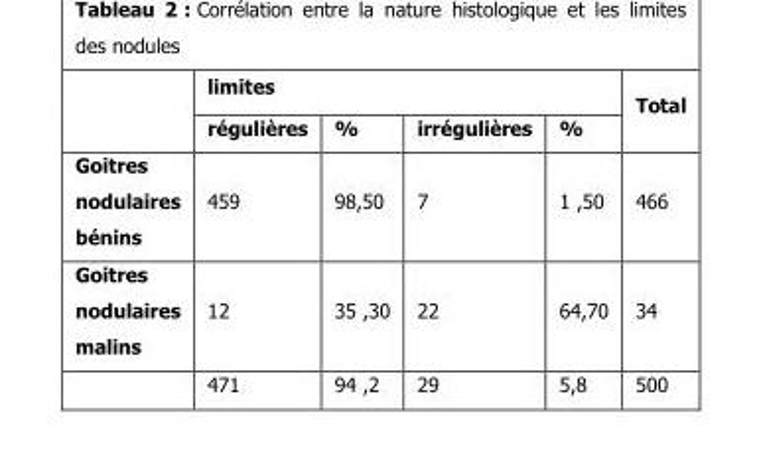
<table><thead><tr><td rowspan="2"></td><td colspan="4">limites</td><td rowspan="2">Total</td></tr><tr><td>régulières</td><td>%</td><td>irrégulières</td><td>%</td></tr></thead><tbody><tr><td>Goitres nodulaires bénins</td><td>459</td><td>98,50</td><td>7</td><td>1 ,50</td><td>466</td></tr><tr><td rowspan="2">Goitres nodulaires malins</td><td>12</td><td>35 ,30</td><td>22</td><td>64,70</td><td>34</td></tr><tr><td>471</td><td>94 ,2</td><td>29</td><td>5,8</td><td>500</td></tr></tbody></table>